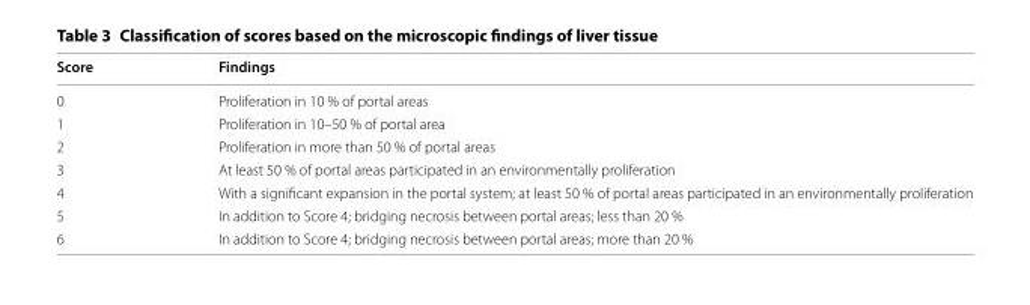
<table><thead><tr><td>Score</td><td>Findings</td></tr></thead><tbody><tr><td>0</td><td>Proliferation in 10 % of portal areas</td></tr><tr><td>1</td><td>Proliferation in 10–50 % of portal area</td></tr><tr><td>2</td><td>Proliferation in more than 50 % of portal areas</td></tr><tr><td>3</td><td>At least 50 % of portal areas participated in an environmentally proliferation</td></tr><tr><td>4</td><td>With a significant expansion in the portal system; at least 50 % of portal areas participated in an environmentally proliferation</td></tr><tr><td>5</td><td>In addition to Score 4; bridging necrosis between portal areas; less than 20 %</td></tr><tr><td>6</td><td>In addition to Score 4; bridging necrosis between portal areas; more than 20 %</td></tr></tbody></table>